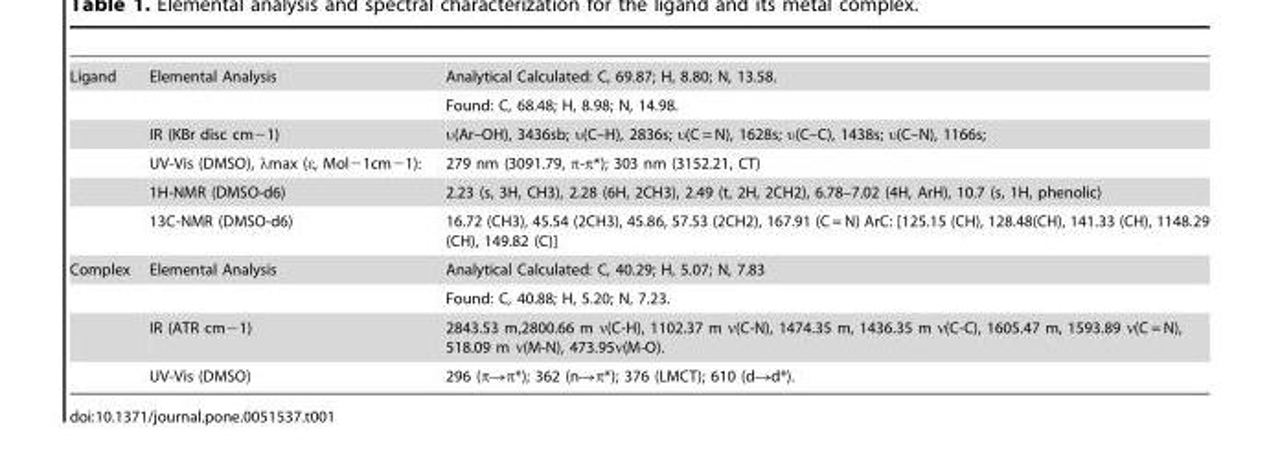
<table><tbody><tr><td rowspan="6">Ligand</td><td>Elemental Analysis</td><td>Analytical Calculated: C, 69.87; H, 8.80; N, 13.58.</td></tr><tr><td></td><td>Found: C, 68.48; H, 8.98; N, 14.98.</td></tr><tr><td>IR (KBr disc cm−1)</td><td>υ(Ar–OH), 3436sb; υ(C–H), 2836s; υ(C = N), 1628s; υ(C–C), 1438s; υ(C–N), 1166s;</td></tr><tr><td>UV-Vis (DMSO), λmax (ε, Mol−1cm−1):</td><td>279 nm (3091.79, π-π*); 303 nm (3152.21, CT)</td></tr><tr><td>1H-NMR (DMSO-d6)</td><td>2.23 (s, 3H, CH3), 2.28 (6H, 2CH3), 2.49 (t, 2H, 2CH2), 6.78–7.02 (4H, ArH), 10.7 (s, 1H, phenolic)</td></tr><tr><td>13C-NMR (DMSO-d6)</td><td>16.72 (CH3), 45.54 (2CH3), 45.86, 57.53 (2CH2), 167.91 (C = N) ArC: [125.15 (CH), 128.48(CH), 141.33 (CH), 1148.29 (CH), 149.82 (C)]</td></tr><tr><td rowspan="4">Complex</td><td>Elemental Analysis</td><td>Analytical Calculated: C, 40.29; H, 5.07; N, 7.83</td></tr><tr><td></td><td>Found: C, 40.88; H, 5.20; N, 7.23.</td></tr><tr><td>IR (ATR cm−1)</td><td>2843.53 m,2800.66 m ν(C-H), 1102.37 m ν(C-N), 1474.35 m, 1436.35 m ν(C-C), 1605.47 m, 1593.89 ν(C = N), 518.09 m ν(M-N), 473.95ν(M-O).</td></tr><tr><td>UV-Vis (DMSO)</td><td>296 (π→π*); 362 (n→π*); 376 (LMCT); 610 (d→d*).</td></tr></tbody></table>